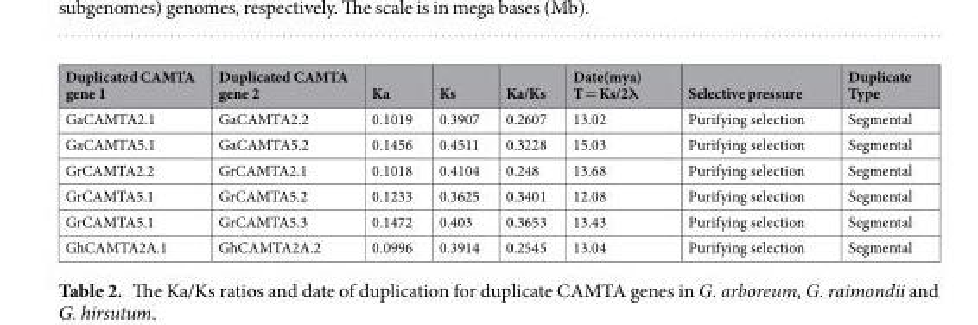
<table><thead><tr><td>Duplicated CAMTA gene 1</td><td>Duplicated CAMTA gene 2</td><td>Ka</td><td>Ks</td><td>Ka/Ks</td><td>Date(mya) T = Ks/2λ</td><td>Selective pressure</td><td>Duplicate Type</td></tr></thead><tbody><tr><td>GaCAMTA2.1</td><td>GaCAMTA2.2</td><td>0.1019</td><td>0.3907</td><td>0.2607</td><td>13.02</td><td>Purifying selection</td><td>Segmental</td></tr><tr><td>GaCAMTA5.1</td><td>GaCAMTA5.2</td><td>0.1456</td><td>0.4511</td><td>0.3228</td><td>15.03</td><td>Purifying selection</td><td>Segmental</td></tr><tr><td>GrCAMTA2.2</td><td>GrCAMTA2.1</td><td>0.1018</td><td>0.4104</td><td>0.248</td><td>13.68</td><td>Purifying selection</td><td>Segmental</td></tr><tr><td>GrCAMTA5.1</td><td>GrCAMTA5.2</td><td>0.1233</td><td>0.3625</td><td>0.3401</td><td>12.08</td><td>Purifying selection</td><td>Segmental</td></tr><tr><td>GrCAMTA5.1</td><td>GrCAMTA5.3</td><td>0.1472</td><td>0.403</td><td>0.3653</td><td>13.43</td><td>Purifying selection</td><td>Segmental</td></tr><tr><td>GhCAMTA2A.1</td><td>GhCAMTA2A.2</td><td>0.0996</td><td>0.3914</td><td>0.2545</td><td>13.04</td><td>Purifying selection</td><td>Segmental</td></tr></tbody></table>